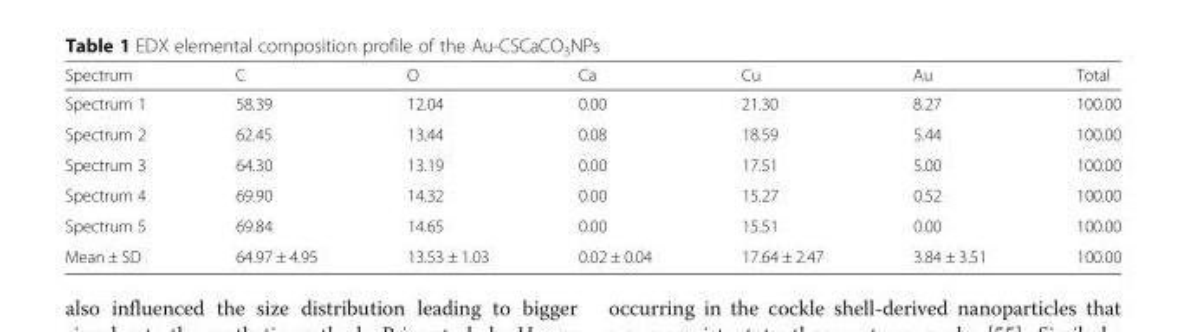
<table><thead><tr><td>Spectrum</td><td>C</td><td>O</td><td>Ca</td><td>Cu</td><td>Au</td><td>Total</td></tr></thead><tbody><tr><td>Spectrum 1</td><td>58.39</td><td>12.04</td><td>0.00</td><td>21.30</td><td>8.27</td><td>100.00</td></tr><tr><td>Spectrum 2</td><td>62.45</td><td>13.44</td><td>0.08</td><td>18.59</td><td>5.44</td><td>100.00</td></tr><tr><td>Spectrum 3</td><td>64.30</td><td>13.19</td><td>0.00</td><td>17.51</td><td>5.00</td><td>100.00</td></tr><tr><td>Spectrum 4</td><td>69.90</td><td>14.32</td><td>0.00</td><td>15.27</td><td>0.52</td><td>100.00</td></tr><tr><td>Spectrum 5</td><td>69.84</td><td>14.65</td><td>0.00</td><td>15.51</td><td>0.00</td><td>100.00</td></tr><tr><td>Mean ± SD</td><td>64.97 ± 4.95</td><td>13.53 ± 1.03</td><td>0.02 ± 0.04</td><td>17.64 ± 2.47</td><td>3.84 ± 3.51</td><td>100.00</td></tr></tbody></table>